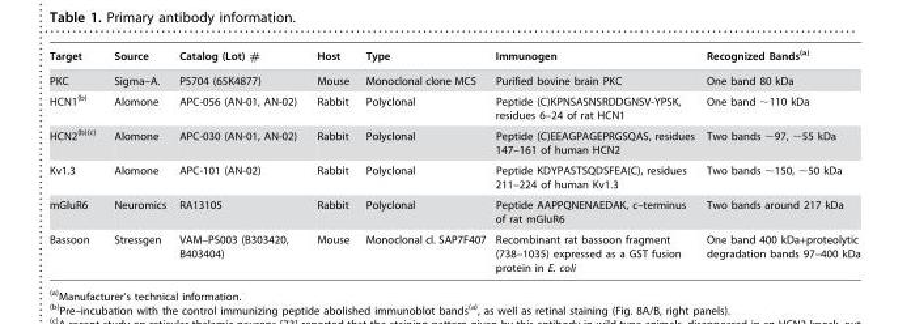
<table><thead><tr><td>Target</td><td>Source</td><td>Catalog (Lot) #</td><td>Host</td><td>Type</td><td>Immunogen</td><td>Recognized Bands(a)</td></tr></thead><tbody><tr><td>PKC</td><td>Sigma–A.</td><td>P5704 (65K4877)</td><td>Mouse</td><td>Monoclonal clone MC5</td><td>Purified bovine brain PKC</td><td>One band 80 kDa</td></tr><tr><td>HCN1(b)</td><td>Alomone</td><td>APC-056 (AN-01, AN-02)</td><td>Rabbit</td><td>Polyclonal</td><td>Peptide (C)KPNSASNSRDDGNSV-YPSK, residues 6–24 of rat HCN1</td><td>One band ∼110 kDa</td></tr><tr><td>HCN2(b)(c)</td><td>Alomone</td><td>APC-030 (AN-01, AN-02)</td><td>Rabbit</td><td>Polyclonal</td><td>Peptide (C)EEAGPAGEPRGSQAS, residues 147–161 of human HCN2</td><td>Two bands ∼97, ∼55 kDa</td></tr><tr><td>Kv1.3</td><td>Alomone</td><td>APC-101 (AN-02)</td><td>Rabbit</td><td>Polyclonal</td><td>Peptide KDYPASTSQDSFEA(C), residues 211–224 of human Kv1.3</td><td>Two bands ∼150, ∼50 kDa</td></tr><tr><td>mGluR6</td><td>Neuromics</td><td>RA13105</td><td>Rabbit</td><td>Polyclonal</td><td>Peptide AAPPQNENAEDAK, c–terminus of rat mGluR6</td><td>Two bands around 217 kDa</td></tr><tr><td>Bassoon</td><td>Stressgen</td><td>VAM–PS003 (B303420, B403404)</td><td>Mouse</td><td>Monoclonal cl. SAP7F407</td><td>Recombinant rat bassoon fragment (738–1035) expressed as a GST fusion protein in E. coli</td><td>One band 400 kDa+proteolytic degradation bands 97–400 kDa</td></tr></tbody></table>